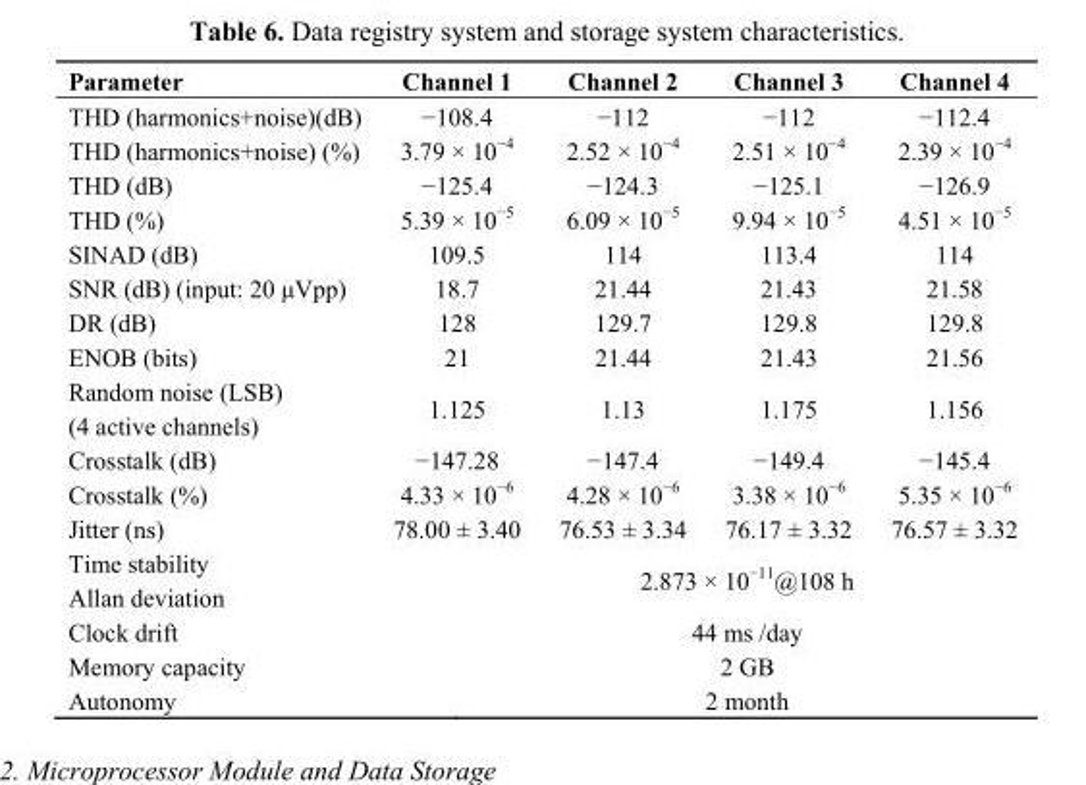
<table><thead><tr><td>Parameter</td><td>Channel 1</td><td>Channel 2</td><td>Channel 3</td><td>Channel 4</td></tr></thead><tbody><tr><td>THD (harmonics+noise)(dB)</td><td>−108.4</td><td>−112</td><td>−112</td><td>−112.4</td></tr><tr><td>THD (harmonics+noise) (%)</td><td>3.79 × 10<sup>−4</sup></td><td>2.52 × 10<sup>−4</sup></td><td>2.51 × 10<sup>−4</sup></td><td>2.39 × 10<sup>−4</sup></td></tr><tr><td>THD (dB)</td><td>−125.4</td><td>−124.3</td><td>−125.1</td><td>−126.9</td></tr><tr><td>THD (%)</td><td>5.39 × 10<sup>−5</sup></td><td>6.09 × 10<sup>−5</sup></td><td>9.94 × 10<sup>−5</sup></td><td>4.51 × 10<sup>−5</sup></td></tr><tr><td>SINAD (dB)</td><td>109.5</td><td>114</td><td>113.4</td><td>114</td></tr><tr><td>SNR (dB) (input: 20 μVpp)</td><td>18.7</td><td>21.44</td><td>21.43</td><td>21.58</td></tr><tr><td>DR (dB)</td><td>128</td><td>129.7</td><td>129.8</td><td>129.8</td></tr><tr><td>ENOB (bits)</td><td>21</td><td>21.44</td><td>21.43</td><td>21.56</td></tr><tr><td>Random noise (LSB) (4 active channels)</td><td>1.125</td><td>1.13</td><td>1.175</td><td>1.156</td></tr><tr><td>Crosstalk (dB)</td><td>−147.28</td><td>−147.4</td><td>−149.4</td><td>−145.4</td></tr><tr><td>Crosstalk (%)</td><td>4.33 × 10<sup>−6</sup></td><td>4.28 × 10<sup>−6</sup></td><td>3.38 × 10<sup>−6</sup></td><td>5.35 × 10<sup>−6</sup></td></tr><tr><td>Jitter (ns)</td><td>78.00 ± 3.40</td><td>76.53 ± 3.34</td><td>76.17 ± 3.32</td><td>76.57 ± 3.32</td></tr><tr><td>Time stability</td><td rowspan="2" colspan="4">2.873 × 10<sup>−11</sup>@108 h</td></tr><tr><td>Allan deviation</td></tr><tr><td>Clock drift</td><td colspan="4">44 ms /day</td></tr><tr><td>Memory capacity</td><td colspan="4">2 GB</td></tr><tr><td>Autonomy</td><td colspan="4">2 month</td></tr></tbody></table>